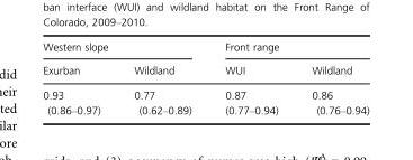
<table><thead><tr><td colspan="2">Western slope</td><td colspan="2">Front range</td></tr><tr><td>Exurban</td><td>Wildland</td><td>WUI</td><td>Wildland</td></tr></thead><tbody><tr><td>0.93 (0.86–0.97)</td><td>0.77 (0.62–0.89)</td><td>0.87 (0.77–0.94)</td><td>0.86 (0.76–0.94)</td></tr></tbody></table>